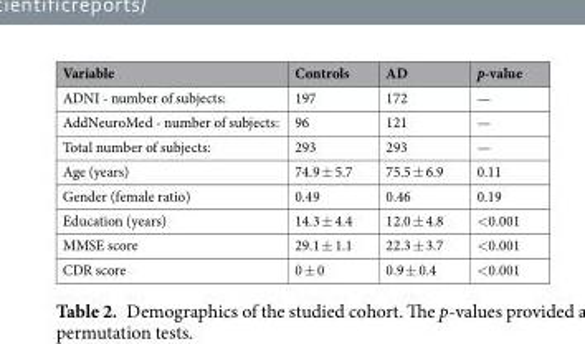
<table><thead><tr><td>Variable</td><td>Controls</td><td>AD</td><td>p-value</td></tr></thead><tbody><tr><td>ADNI - number of subjects:</td><td>197</td><td>172</td><td>—</td></tr><tr><td>AddNeuroMed - number of subjects:</td><td>96</td><td>121</td><td>—</td></tr><tr><td>Total number of subjects:</td><td>293</td><td>293</td><td>—</td></tr><tr><td>Age (years)</td><td>74.9 ± 5.7</td><td>75.5 ± 6.9</td><td>0.11</td></tr><tr><td>Gender (female ratio)</td><td>0.49</td><td>0.46</td><td>0.19</td></tr><tr><td>Education (years)</td><td>14.3 ± 4.4</td><td>12.0 ± 4.8</td><td>&lt;0.001</td></tr><tr><td>MMSE score</td><td>29.1 ± 1.1</td><td>22.3 ± 3.7</td><td>&lt;0.001</td></tr><tr><td>CDR score</td><td>0 ± 0</td><td>0.9 ± 0.4</td><td>&lt;0.001</td></tr></tbody></table>